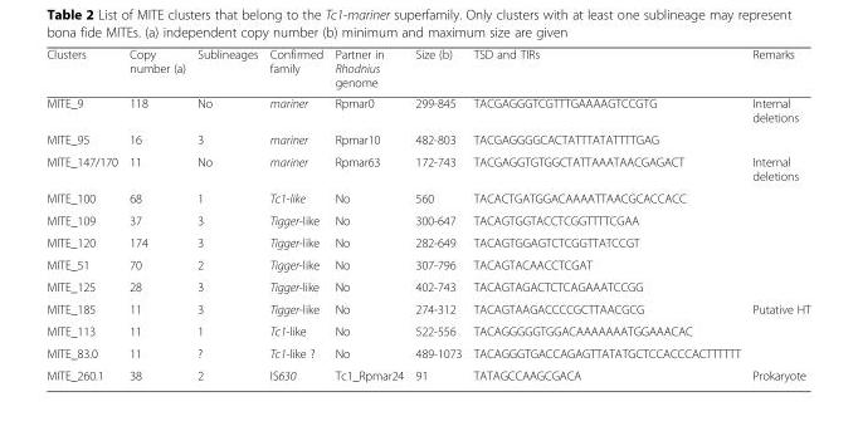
<table><thead><tr><td>Clusters</td><td>Copy number (a)</td><td>Sublineages</td><td>Confirmed family</td><td>Partner in Rhodnius genome</td><td>Size (b)</td><td>TSD and TIRs</td><td>Remarks</td></tr></thead><tbody><tr><td>MITE_9</td><td>118</td><td>No</td><td>mariner</td><td>Rpmar0</td><td>299-845</td><td>TACGAGGGTCGTTTGAAAAGTCCGTG</td><td>Internal deletions</td></tr><tr><td>MITE_95</td><td>16</td><td>3</td><td>mariner</td><td>Rpmar10</td><td>482-803</td><td>TACGAGGGGCACTATTTATATTTTGAG</td><td></td></tr><tr><td>MITE_147/170</td><td>11</td><td>No</td><td>mariner</td><td>Rpmar63</td><td>172-743</td><td>TACGAGGTGTGGCTATTAAATAACGAGACT</td><td>Internal deletions</td></tr><tr><td>MITE_100</td><td>68</td><td>1</td><td>Tc1-like</td><td>No</td><td>560</td><td>TACACTGATGGACAAAATTAACGCACCACC</td><td></td></tr><tr><td>MITE_109</td><td>37</td><td>3</td><td>Tigger-like</td><td>No</td><td>300-647</td><td>TACAGTGGTACCTCGGTTTTCGAA</td><td></td></tr><tr><td>MITE_120</td><td>174</td><td>3</td><td>Tigger-like</td><td>No</td><td>282-649</td><td>TACAGTGGAGTCTCGGTTATCCGT</td><td></td></tr><tr><td>MITE_51</td><td>70</td><td>2</td><td>Tigger-like</td><td>No</td><td>307-796</td><td>TACAGTACAACCTCGAT</td><td></td></tr><tr><td>MITE_125</td><td>28</td><td>3</td><td>Tigger-like</td><td>No</td><td>402-743</td><td>TACAGTAGACTCTCAGAAATCCGG</td><td></td></tr><tr><td>MITE_185</td><td>11</td><td>3</td><td>Tigger-like</td><td>No</td><td>274-312</td><td>TACAGTAAGACCCCGCTTAACGCG</td><td>Putative HT</td></tr><tr><td>MITE_113</td><td>11</td><td>1</td><td>Tc1-like</td><td>No</td><td>522-556</td><td>TACAGGGGGTGGACAAAAAAATGGAAACAC</td><td></td></tr><tr><td>MITE_83.0</td><td>11</td><td>?</td><td>Tc1-like ?</td><td>No</td><td>489-1073</td><td>TACAGGGTGACCAGAGTTATATGCTCCACCCACTTTTTT</td><td></td></tr><tr><td>MITE_260.1</td><td>38</td><td>2</td><td>IS630</td><td>Tc1_Rpmar24</td><td>91</td><td>TATAGCCAAGCGACA</td><td>Prokaryote</td></tr></tbody></table>